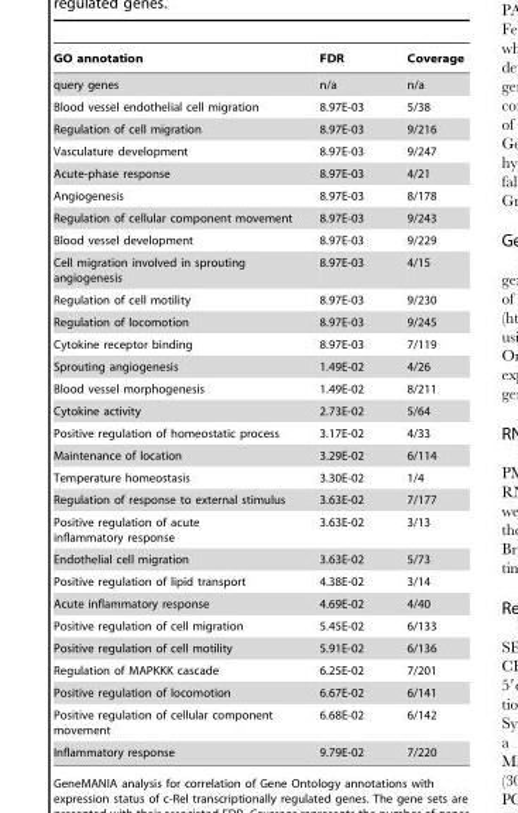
<table><thead><tr><td>GO annotation</td><td>FDR</td><td>Coverage</td></tr></thead><tbody><tr><td>query genes</td><td>n/a</td><td>n/a</td></tr><tr><td>Blood vessel endothelial cell migration</td><td>8.97E-03</td><td>5/38</td></tr><tr><td>Regulation of cell migration</td><td>8.97E-03</td><td>9/216</td></tr><tr><td>Vasculature development</td><td>8.97E-03</td><td>9/247</td></tr><tr><td>Acute-phase response</td><td>8.97E-03</td><td>4/21</td></tr><tr><td>Angiogenesis</td><td>8.97E-03</td><td>8/178</td></tr><tr><td>Regulation of cellular component movement</td><td>8.97E-03</td><td>9/243</td></tr><tr><td>Blood vessel development</td><td>8.97E-03</td><td>9/229</td></tr><tr><td>Cell migration involved in sprouting angiogenesis</td><td>8.97E-03</td><td>4/15</td></tr><tr><td>Regulation of cell motility</td><td>8.97E-03</td><td>9/230</td></tr><tr><td>Regulation of locomotion</td><td>8.97E-03</td><td>9/245</td></tr><tr><td>Cytokine receptor binding</td><td>8.97E-03</td><td>7/119</td></tr><tr><td>Sprouting angiogenesis</td><td>1.49E-02</td><td>4/26</td></tr><tr><td>Blood vessel morphogenesis</td><td>1.49E-02</td><td>8/211</td></tr><tr><td>Cytokine activity</td><td>2.73E-02</td><td>5/64</td></tr><tr><td>Positive regulation of homeostatic process</td><td>3.17E-02</td><td>4/33</td></tr><tr><td>Maintenance of location</td><td>3.29E-02</td><td>6/114</td></tr><tr><td>Temperature homeostasis</td><td>3.30E-02</td><td>1/4</td></tr><tr><td>Regulation of response to external stimulus</td><td>3.63E-02</td><td>7/177</td></tr><tr><td>Positive regulation of acute inflammatory response</td><td>3.63E-02</td><td>3/13</td></tr><tr><td>Endothelial cell migration</td><td>3.63E-02</td><td>5/73</td></tr><tr><td>Positive regulation of lipid transport</td><td>4.38E-02</td><td>3/14</td></tr><tr><td>Acute inflammatory response</td><td>4.69E-02</td><td>4/40</td></tr><tr><td>Positive regulation of cell migration</td><td>5.45E-02</td><td>6/133</td></tr><tr><td>Positive regulation of cell motility</td><td>5.91E-02</td><td>6/136</td></tr><tr><td>Regulation of MAPKKK cascade</td><td>6.25E-02</td><td>7/201</td></tr><tr><td>Positive regulation of locomotion</td><td>6.67E-02</td><td>6/141</td></tr><tr><td>Positive regulation of cellular component movement</td><td>6.68E-02</td><td>6/142</td></tr><tr><td>Inflammatory response</td><td>9.79E-02</td><td>7/220</td></tr></tbody></table>